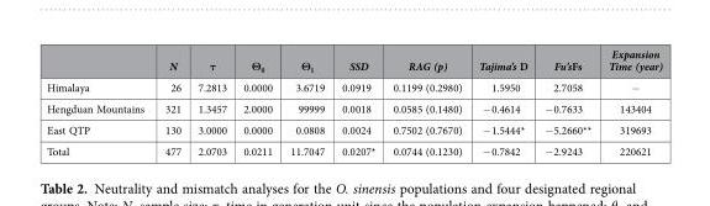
<table><thead><tr><td></td><td>N</td><td>τ</td><td>Θ<sub>0</sub></td><td>Θ<sub>1</sub></td><td>SSD</td><td>RAG (p)</td><td>Tajima’s D</td><td>Fu’sFs</td><td>Expansion Time (year)</td></tr></thead><tbody><tr><td>Himalaya</td><td>26</td><td>7.2813</td><td>0.0000</td><td>3.6719</td><td>0.0919</td><td>0.1199 (0.2980)</td><td>1.5950</td><td>2.7058</td><td>−</td></tr><tr><td>Hengduan Mountains</td><td>321</td><td>1.3457</td><td>2.0000</td><td>99999</td><td>0.0018</td><td>0.0585 (0.1480)</td><td>− 0.4614</td><td>− 0.7633</td><td>143404</td></tr><tr><td>East QTP</td><td>130</td><td>3.0000</td><td>0.0000</td><td>0.0808</td><td>0.0024</td><td>0.7502 (0.7670)</td><td>− 1.5444*</td><td>− 5.2660**</td><td>319693</td></tr><tr><td>Total</td><td>477</td><td>2.0703</td><td>0.0211</td><td>11.7047</td><td>0.0207*</td><td>0.0744 (0.1230)</td><td>− 0.7842</td><td>− 2.9243</td><td>220621</td></tr></tbody></table>